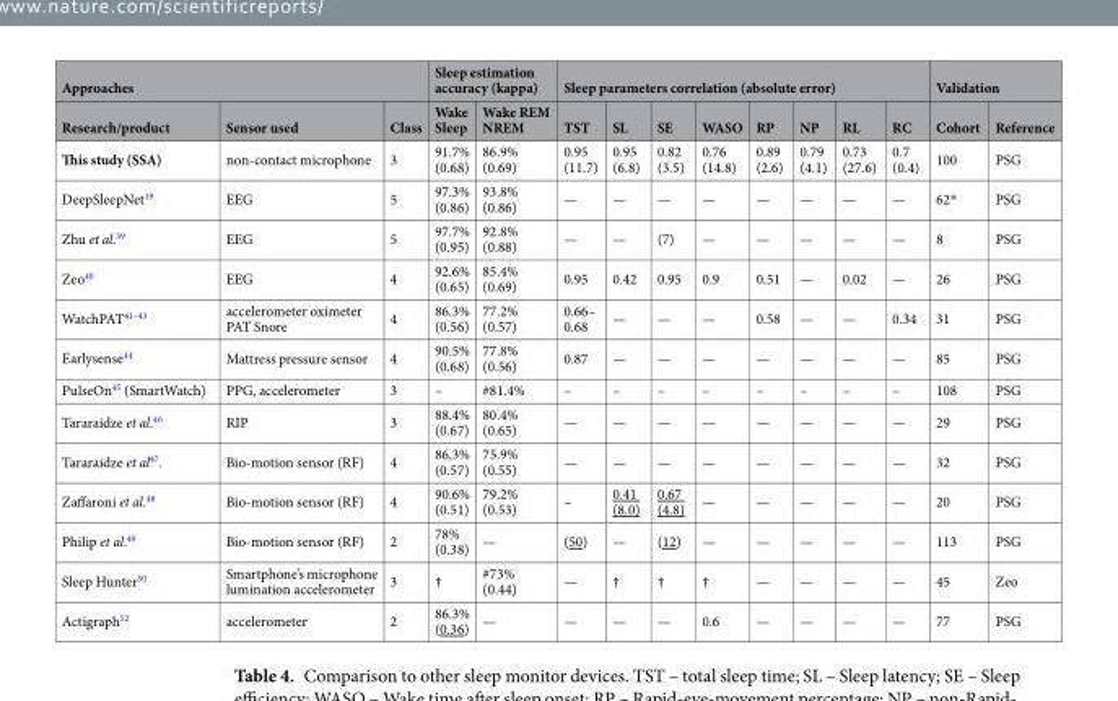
<table><thead><tr><td colspan="3">Approaches</td><td colspan="2">Sleep estimation accuracy (kappa)</td><td colspan="8">Sleep parameters correlation (absolute error)</td><td colspan="2">Validation</td></tr><tr><td>Research/product</td><td>Sensor used</td><td>Class</td><td>Wake Sleep</td><td>Wake REM NREM</td><td>TST</td><td>SL</td><td>SE</td><td>WASO</td><td>RP</td><td>NP</td><td>RL</td><td>RC</td><td>Cohort</td><td>Reference</td></tr></thead><tbody><tr><td>This study (SSA)</td><td>non-contact microphone</td><td>3</td><td>91.7% (0.68)</td><td>86.9% (0.69)</td><td>0.95 (11.7)</td><td>0.95 (6.8)</td><td>0.82 (3.5)</td><td>0.76 (14.8)</td><td>0.89 (2.6)</td><td>0.79 (4.1)</td><td>0.73 (27.6)</td><td>0.7 (0.4)</td><td>100</td><td>PSG</td></tr><tr><td>DeepSleepNet<sup>19</sup></td><td>EEG</td><td>5</td><td>97.3% (0.86)</td><td>93.8% (0.86)</td><td>—</td><td>—</td><td>—</td><td>—</td><td>—</td><td>—</td><td>—</td><td>—</td><td>62*</td><td>PSG</td></tr><tr><td>Zhu et al.<sup>39</sup></td><td>EEG</td><td>5</td><td>97.7% (0.95)</td><td>92.8% (0.88)</td><td>—</td><td>—</td><td>(7)</td><td>—</td><td>—</td><td>—</td><td>—</td><td>—</td><td>8</td><td>PSG</td></tr><tr><td>Zeo<sup>40</sup></td><td>EEG</td><td>4</td><td>92.6% (0.65)</td><td>85.4% (0.69)</td><td>0.95</td><td>0.42</td><td>0.95</td><td>0.9</td><td>0.51</td><td>—</td><td>0.02</td><td>—</td><td>26</td><td>PSG</td></tr><tr><td>WatchPAT<sup>41–43</sup></td><td>accelerometer oximeter PAT Snore</td><td>4</td><td>86.3% (0.56)</td><td>77.2% (0.57)</td><td>0.66– 0.68</td><td>—</td><td>—</td><td>—</td><td>0.58</td><td>—</td><td>—</td><td>0.34</td><td>31</td><td>PSG</td></tr><tr><td>Earlysense<sup>44</sup></td><td>Mattress pressure sensor</td><td>4</td><td>90.5% (0.68)</td><td>77.8% (0.56)</td><td>0.87</td><td>—</td><td>—</td><td>—</td><td>—</td><td>—</td><td>—</td><td>—</td><td>85</td><td>PSG</td></tr><tr><td>PulseOn<sup>45</sup> (SmartWatch)</td><td>PPG, accelerometer</td><td>3</td><td>–</td><td>#81.4%</td><td>–</td><td>–</td><td>–</td><td>–</td><td>–</td><td>–</td><td>–</td><td>–</td><td>108</td><td>PSG</td></tr><tr><td>Tararaidze et al.<sup>46</sup></td><td>RIP</td><td>3</td><td>88.4% (0.67)</td><td>80.4% (0.65)</td><td>—</td><td>—</td><td>—</td><td>—</td><td>—</td><td>—</td><td>—</td><td>—</td><td>29</td><td>PSG</td></tr><tr><td>Tararaidze et al<sup>47</sup>.</td><td>Bio-motion sensor (RF)</td><td>4</td><td>86.3% (0.57)</td><td>75.9% (0.55)</td><td>—</td><td>—</td><td>—</td><td>—</td><td>—</td><td>—</td><td>—</td><td>—</td><td>32</td><td>PSG</td></tr><tr><td>Zaffaroni et al.<sup>48</sup></td><td>Bio-motion sensor (RF)</td><td>4</td><td>90.6% (0.51)</td><td>79.2% (0.53)</td><td>–</td><td>0.41 (8.0)</td><td>0.67 (4.8)</td><td>—</td><td>—</td><td>—</td><td>—</td><td>—</td><td>20</td><td>PSG</td></tr><tr><td>Philip et al.<sup>49</sup></td><td>Bio-motion sensor (RF)</td><td>2</td><td>78% (0.38)</td><td>—</td><td>(50)</td><td>—</td><td>(12)</td><td>—</td><td>—</td><td>—</td><td>—</td><td>—</td><td>113</td><td>PSG</td></tr><tr><td>Sleep Hunter<sup>50</sup></td><td>Smartphone’s microphone lumination accelerometer</td><td>3</td><td>†</td><td>#73% (0.44)</td><td>—</td><td>†</td><td>†</td><td>†</td><td>—</td><td>—</td><td>—</td><td>—</td><td>45</td><td>Zeo</td></tr><tr><td>Actigraph<sup>52</sup></td><td>accelerometer</td><td>2</td><td>86.3% (0.36)</td><td>—</td><td>—</td><td>—</td><td>—</td><td>0.6</td><td>—</td><td>—</td><td>—</td><td>—</td><td>77</td><td>PSG</td></tr></tbody></table>